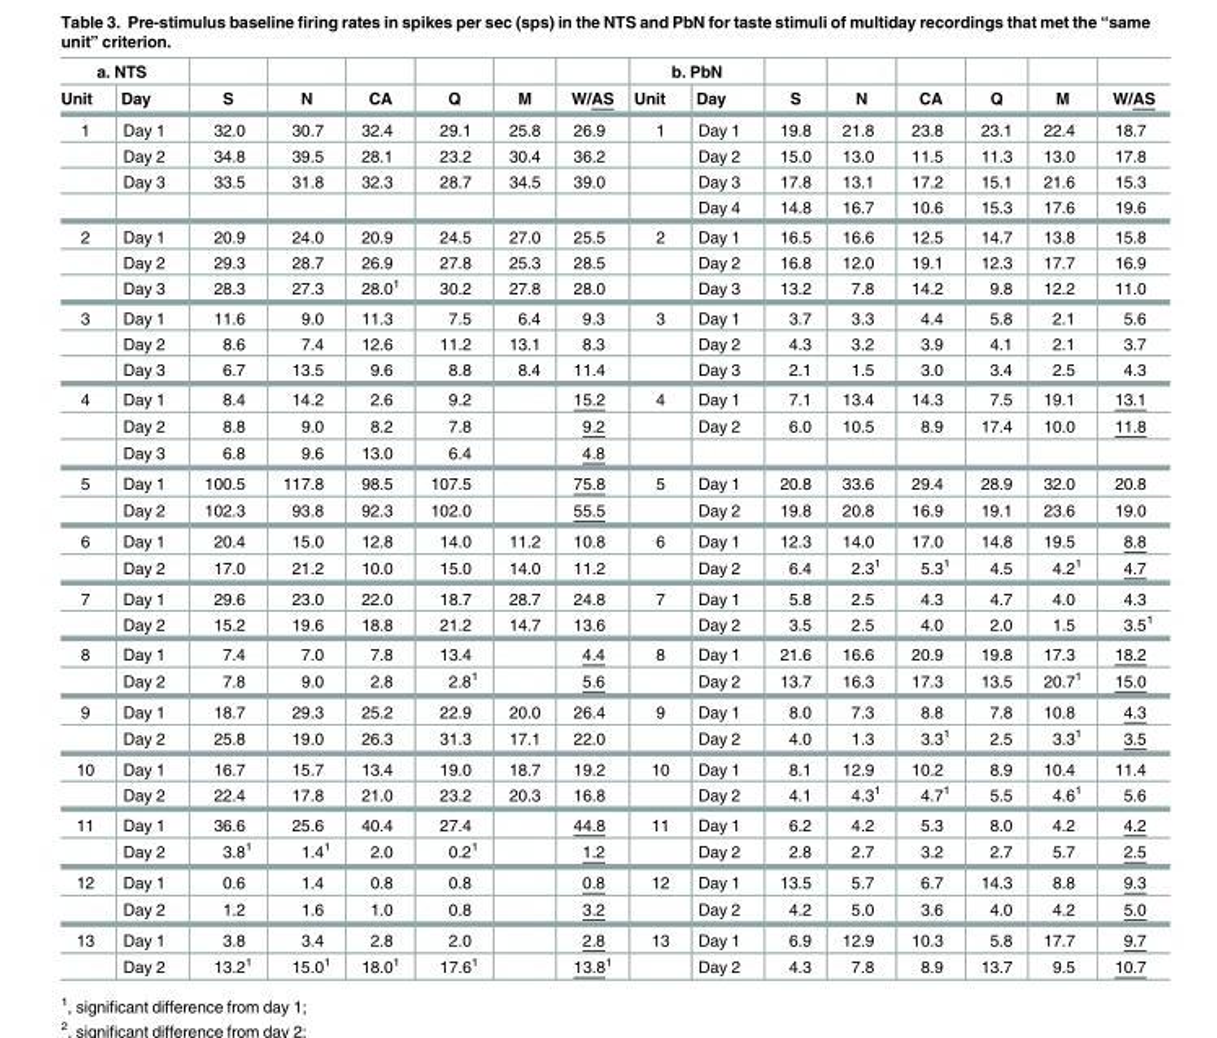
<table><thead><tr><td colspan="2">a. NTS</td><td rowspan="2">S</td><td rowspan="2">N</td><td rowspan="2">CA</td><td rowspan="2">Q</td><td rowspan="2">M</td><td rowspan="2">W/AS</td><td colspan="2">b. PbN</td><td rowspan="2">S</td><td rowspan="2">N</td><td rowspan="2">CA</td><td rowspan="2">Q</td><td rowspan="2">M</td><td rowspan="2">W/AS</td></tr><tr><td>Unit</td><td>Day</td><td>Unit</td><td>Day</td></tr></thead><tbody><tr><td rowspan="4">1</td><td>Day 1</td><td>32.0</td><td>30.7</td><td>32.4</td><td>29.1</td><td>25.8</td><td>26.9</td><td>1</td><td>Day 1</td><td>19.8</td><td>21.8</td><td>23.8</td><td>23.1</td><td>22.4</td><td>18.7</td></tr><tr><td>Day 2</td><td>34.8</td><td>39.5</td><td>28.1</td><td>23.2</td><td>30.4</td><td>36.2</td><td></td><td>Day 2</td><td>15.0</td><td>13.0</td><td>11.5</td><td>11.3</td><td>13.0</td><td>17.8</td></tr><tr><td>Day 3</td><td>33.5</td><td>31.8</td><td>32.3</td><td>28.7</td><td>34.5</td><td>39.0</td><td></td><td>Day 3</td><td>17.8</td><td>13.1</td><td>17.2</td><td>15.1</td><td>21.6</td><td>15.3</td></tr><tr><td></td><td></td><td></td><td></td><td></td><td></td><td></td><td></td><td>Day 4</td><td>14.8</td><td>16.7</td><td>10.6</td><td>15.3</td><td>17.6</td><td>19.6</td></tr><tr><td rowspan="3">2</td><td>Day 1</td><td>20.9</td><td>24.0</td><td>20.9</td><td>24.5</td><td>27.0</td><td>25.5</td><td>2</td><td>Day 1</td><td>16.5</td><td>16.6</td><td>12.5</td><td>14.7</td><td>13.8</td><td>15.8</td></tr><tr><td>Day 2</td><td>29.3</td><td>28.7</td><td>26.9</td><td>27.8</td><td>25.3</td><td>28.5</td><td></td><td>Day 2</td><td>16.8</td><td>12.0</td><td>19.1</td><td>12.3</td><td>17.7</td><td>16.9</td></tr><tr><td>Day 3</td><td>28.3</td><td>27.3</td><td>28.0<sup>1</sup></td><td>30.2</td><td>27.8</td><td>28.0</td><td></td><td>Day 3</td><td>13.2</td><td>7.8</td><td>14.2</td><td>9.8</td><td>12.2</td><td>11.0</td></tr><tr><td rowspan="3">3</td><td>Day 1</td><td>11.6</td><td>9.0</td><td>11.3</td><td>7.5</td><td>6.4</td><td>9.3</td><td>3</td><td>Day 1</td><td>3.7</td><td>3.3</td><td>4.4</td><td>5.8</td><td>2.1</td><td>5.6</td></tr><tr><td>Day 2</td><td>8.6</td><td>7.4</td><td>12.6</td><td>11.2</td><td>13.1</td><td>8.3</td><td></td><td>Day 2</td><td>4.3</td><td>3.2</td><td>3.9</td><td>4.1</td><td>2.1</td><td>3.7</td></tr><tr><td>Day 3</td><td>6.7</td><td>13.5</td><td>9.6</td><td>8.8</td><td>8.4</td><td>11.4</td><td></td><td>Day 3</td><td>2.1</td><td>1.5</td><td>3.0</td><td>3.4</td><td>2.5</td><td>4.3</td></tr><tr><td rowspan="3">4</td><td>Day 1</td><td>8.4</td><td>14.2</td><td>2.6</td><td>9.2</td><td></td><td>15.2</td><td>4</td><td>Day 1</td><td>7.1</td><td>13.4</td><td>14.3</td><td>7.5</td><td>19.1</td><td>13.1</td></tr><tr><td>Day 2</td><td>8.8</td><td>9.0</td><td>8.2</td><td>7.8</td><td></td><td>9.2</td><td></td><td>Day 2</td><td>6.0</td><td>10.5</td><td>8.9</td><td>17.4</td><td>10.0</td><td>11.8</td></tr><tr><td>Day 3</td><td>6.8</td><td>9.6</td><td>13.0</td><td>6.4</td><td></td><td>4.8</td><td></td><td></td><td></td><td></td><td></td><td></td><td></td><td></td></tr><tr><td rowspan="2">5</td><td>Day 1</td><td>100.5</td><td>117.8</td><td>98.5</td><td>107.5</td><td></td><td>75.8</td><td>5</td><td>Day 1</td><td>20.8</td><td>33.6</td><td>29.4</td><td>28.9</td><td>32.0</td><td>20.8</td></tr><tr><td>Day 2</td><td>102.3</td><td>93.8</td><td>92.3</td><td>102.0</td><td></td><td>55.5</td><td></td><td>Day 2</td><td>19.8</td><td>20.8</td><td>16.9</td><td>19.1</td><td>23.6</td><td>19.0</td></tr><tr><td rowspan="2">6</td><td>Day 1</td><td>20.4</td><td>15.0</td><td>12.8</td><td>14.0</td><td>11.2</td><td>10.8</td><td>6</td><td>Day 1</td><td>12.3</td><td>14.0</td><td>17.0</td><td>14.8</td><td>19.5</td><td>8.8</td></tr><tr><td>Day 2</td><td>17.0</td><td>21.2</td><td>10.0</td><td>15.0</td><td>14.0</td><td>11.2</td><td></td><td>Day 2</td><td>6.4</td><td>2.3<sup>1</sup></td><td>5.3<sup>1</sup></td><td>4.5</td><td>4.2<sup>1</sup></td><td>4.7</td></tr><tr><td rowspan="2">7</td><td>Day 1</td><td>29.6</td><td>23.0</td><td>22.0</td><td>18.7</td><td>28.7</td><td>24.8</td><td>7</td><td>Day 1</td><td>5.8</td><td>2.5</td><td>4.3</td><td>4.7</td><td>4.0</td><td>4.3</td></tr><tr><td>Day 2</td><td>15.2</td><td>19.6</td><td>18.8</td><td>21.2</td><td>14.7</td><td>13.6</td><td></td><td>Day 2</td><td>3.5</td><td>2.5</td><td>4.0</td><td>2.0</td><td>1.5</td><td>3.5<sup>1</sup></td></tr><tr><td rowspan="2">8</td><td>Day 1</td><td>7.4</td><td>7.0</td><td>7.8</td><td>13.4</td><td></td><td>4.4</td><td>8</td><td>Day 1</td><td>21.6</td><td>16.6</td><td>20.9</td><td>19.8</td><td>17.3</td><td>18.2</td></tr><tr><td>Day 2</td><td>7.8</td><td>9.0</td><td>2.8</td><td>2.8<sup>1</sup></td><td></td><td>5.6</td><td></td><td>Day 2</td><td>13.7</td><td>16.3</td><td>17.3</td><td>13.5</td><td>20.7<sup>1</sup></td><td>15.0</td></tr><tr><td rowspan="2">9</td><td>Day 1</td><td>18.7</td><td>29.3</td><td>25.2</td><td>22.9</td><td>20.0</td><td>26.4</td><td>9</td><td>Day 1</td><td>8.0</td><td>7.3</td><td>8.8</td><td>7.8</td><td>10.8</td><td>4.3</td></tr><tr><td>Day 2</td><td>25.8</td><td>19.0</td><td>26.3</td><td>31.3</td><td>17.1</td><td>22.0</td><td></td><td>Day 2</td><td>4.0</td><td>1.3</td><td>3.3<sup>1</sup></td><td>2.5</td><td>3.3<sup>1</sup></td><td>3.5</td></tr><tr><td rowspan="2">10</td><td>Day 1</td><td>16.7</td><td>15.7</td><td>13.4</td><td>19.0</td><td>18.7</td><td>19.2</td><td>10</td><td>Day 1</td><td>8.1</td><td>12.9</td><td>10.2</td><td>8.9</td><td>10.4</td><td>11.4</td></tr><tr><td>Day 2</td><td>22.4</td><td>17.8</td><td>21.0</td><td>23.2</td><td>20.3</td><td>16.8</td><td></td><td>Day 2</td><td>4.1</td><td>4.3<sup>1</sup></td><td>4.7<sup>1</sup></td><td>5.5</td><td>4.6<sup>1</sup></td><td>5.6</td></tr><tr><td rowspan="2">11</td><td>Day 1</td><td>36.6</td><td>25.6</td><td>40.4</td><td>27.4</td><td></td><td>44.8</td><td>11</td><td>Day 1</td><td>6.2</td><td>4.2</td><td>5.3</td><td>8.0</td><td>4.2</td><td>4.2</td></tr><tr><td>Day 2</td><td>3.8<sup>1</sup></td><td>1.4<sup>1</sup></td><td>2.0</td><td>0.2<sup>1</sup></td><td></td><td>1.2</td><td></td><td>Day 2</td><td>2.8</td><td>2.7</td><td>3.2</td><td>2.7</td><td>5.7</td><td>2.5</td></tr><tr><td rowspan="2">12</td><td>Day 1</td><td>0.6</td><td>1.4</td><td>0.8</td><td>0.8</td><td></td><td>0.8</td><td>12</td><td>Day 1</td><td>13.5</td><td>5.7</td><td>6.7</td><td>14.3</td><td>8.8</td><td>9.3</td></tr><tr><td>Day 2</td><td>1.2</td><td>1.6</td><td>1.0</td><td>0.8</td><td></td><td>3.2</td><td></td><td>Day 2</td><td>4.2</td><td>5.0</td><td>3.6</td><td>4.0</td><td>4.2</td><td>5.0</td></tr><tr><td rowspan="2">13</td><td>Day 1</td><td>3.8</td><td>3.4</td><td>2.8</td><td>2.0</td><td></td><td>2.8</td><td>13</td><td>Day 1</td><td>6.9</td><td>12.9</td><td>10.3</td><td>5.8</td><td>17.7</td><td>9.7</td></tr><tr><td>Day 2</td><td>13.2<sup>1</sup></td><td>15.0<sup>1</sup></td><td>18.0<sup>1</sup></td><td>17.6<sup>1</sup></td><td></td><td>13.8<sup>1</sup></td><td></td><td>Day 2</td><td>4.3</td><td>7.8</td><td>8.9</td><td>13.7</td><td>9.5</td><td>10.7</td></tr></tbody></table>